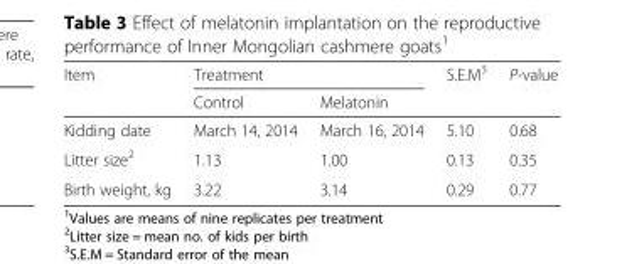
<table><thead><tr><td rowspan="2">Item</td><td colspan="2">Treatment</td><td rowspan="2">S.E.M<sup>3</sup></td><td rowspan="2">P-value</td></tr><tr><td>Control</td><td>Melatonin</td></tr></thead><tbody><tr><td>Kidding date</td><td>March 14, 2014</td><td>March 16, 2014</td><td>5.10</td><td>0.68</td></tr><tr><td>Litter size<sup>2</sup></td><td>1.13</td><td>1.00</td><td>0.13</td><td>0.35</td></tr><tr><td>Birth weight, kg</td><td>3.22</td><td>3.14</td><td>0.29</td><td>0.77</td></tr></tbody></table>